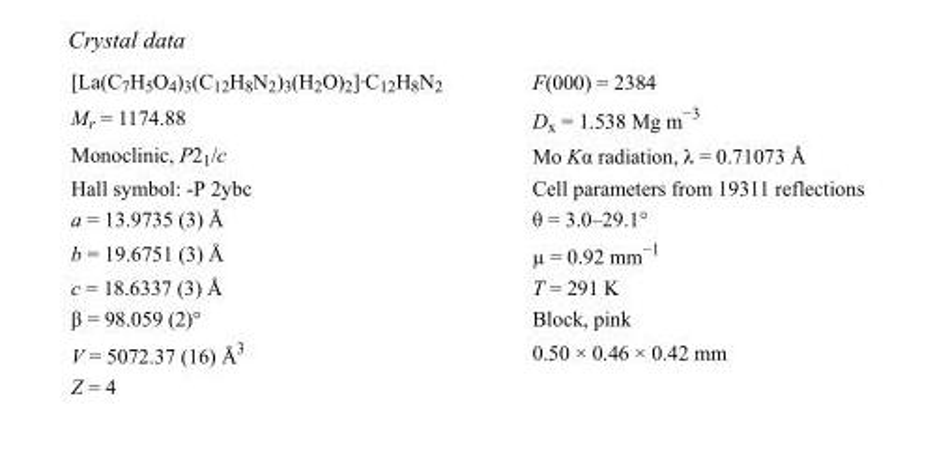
<table><tbody><tr><td>[La(C<sub>7</sub>H<sub>5</sub>O<sub>4</sub>)<sub>3</sub>(C<sub>12</sub>H<sub>8</sub>N<sub>2</sub>)<sub>3</sub>(H<sub>2</sub>O)<sub>2</sub>]·C<sub>12</sub>H<sub>8</sub>N<sub>2</sub></td><td>F(000) = 2384</td></tr><tr><td>M<sub>r</sub> = 1174.88</td><td>D<sub>x</sub> = 1.538 Mg m<sup>−3</sup></td></tr><tr><td>Monoclinic, P2<sub>1</sub>/c</td><td>Mo Kα radiation, λ = 0.71073 Å</td></tr><tr><td>Hall symbol: -P 2ybc</td><td>Cell parameters from 19311 reflections</td></tr><tr><td>a = 13.9735 (3) Å</td><td>θ = 3.0–29.1°</td></tr><tr><td>b = 19.6751 (3) Å</td><td>µ = 0.92 mm<sup>−1</sup></td></tr><tr><td>c = 18.6337 (3) Å</td><td>T = 291 K</td></tr><tr><td>β = 98.059 (2)°</td><td>Block, pink</td></tr><tr><td>V = 5072.37 (16) Å<sup>3</sup></td><td>0.50 × 0.46 × 0.42 mm</td></tr><tr><td>Z = 4</td><td></td></tr></tbody></table>